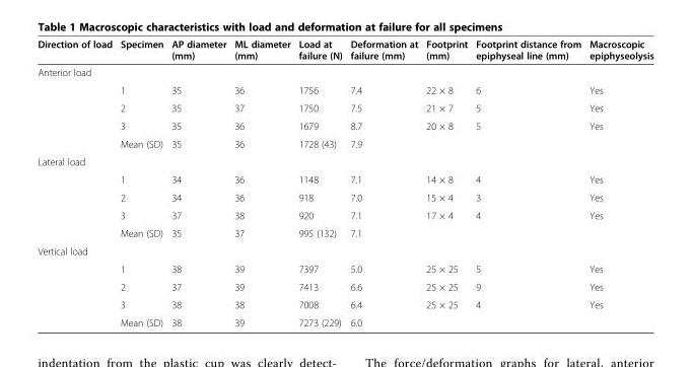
<table><thead><tr><td>Direction of load</td><td>Specimen</td><td>AP diameter (mm)</td><td>ML diameter (mm)</td><td>Load at failure (N)</td><td>Deformation at failure (mm)</td><td>Footprint (mm)</td><td>Footprint distance from epiphyseal line (mm)</td><td>Macroscopic epiphyseolysis</td></tr></thead><tbody><tr><td colspan="9">Anterior load</td></tr><tr><td></td><td>1</td><td>35</td><td>36</td><td>1756</td><td>7.4</td><td>22 × 8</td><td>6</td><td>Yes</td></tr><tr><td></td><td>2</td><td>35</td><td>37</td><td>1750</td><td>7.5</td><td>21 × 7</td><td>5</td><td>Yes</td></tr><tr><td></td><td>3</td><td>35</td><td>36</td><td>1679</td><td>8.7</td><td>20 × 8</td><td>5</td><td>Yes</td></tr><tr><td></td><td>Mean (SD)</td><td>35</td><td>36</td><td>1728 (43)</td><td>7.9</td><td></td><td></td><td></td></tr><tr><td colspan="9">Lateral load</td></tr><tr><td></td><td>1</td><td>34</td><td>36</td><td>1148</td><td>7.1</td><td>14 × 8</td><td>4</td><td>Yes</td></tr><tr><td></td><td>2</td><td>34</td><td>36</td><td>918</td><td>7.0</td><td>15 × 4</td><td>3</td><td>Yes</td></tr><tr><td></td><td>3</td><td>37</td><td>38</td><td>920</td><td>7.1</td><td>17 × 4</td><td>4</td><td>Yes</td></tr><tr><td></td><td>Mean (SD)</td><td>35</td><td>37</td><td>995 (132)</td><td>7.1</td><td></td><td></td><td></td></tr><tr><td colspan="9">Vertical load</td></tr><tr><td></td><td>1</td><td>38</td><td>39</td><td>7397</td><td>5.0</td><td>25 × 25</td><td>5</td><td>Yes</td></tr><tr><td></td><td>2</td><td>37</td><td>39</td><td>7413</td><td>6.6</td><td>25 × 25</td><td>9</td><td>Yes</td></tr><tr><td></td><td>3</td><td>38</td><td>38</td><td>7008</td><td>6.4</td><td>25 × 25</td><td>4</td><td>Yes</td></tr><tr><td></td><td>Mean (SD)</td><td>38</td><td>39</td><td>7273 (229)</td><td>6.0</td><td></td><td></td><td></td></tr></tbody></table>